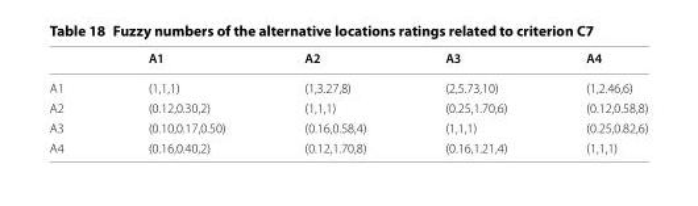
<table><thead><tr><td></td><td>A1</td><td>A2</td><td>A3</td><td>A4</td></tr></thead><tbody><tr><td>A1</td><td>(1,1,1)</td><td>(1,3.27,8)</td><td>(2,5.73,10)</td><td>(1,2.46,6)</td></tr><tr><td>A2</td><td>(0.12,0.30,2)</td><td>(1,1,1)</td><td>(0.25,1.70,6)</td><td>(0.12,0.58,8)</td></tr><tr><td>A3</td><td>(0.10,0.17,0.50)</td><td>(0.16,0.58,4)</td><td>(1,1,1)</td><td>(0.25,0.82,6)</td></tr><tr><td>A4</td><td>(0.16,0.40,2)</td><td>(0.12,1.70,8)</td><td>(0.16,1.21,4)</td><td>(1,1,1)</td></tr></tbody></table>